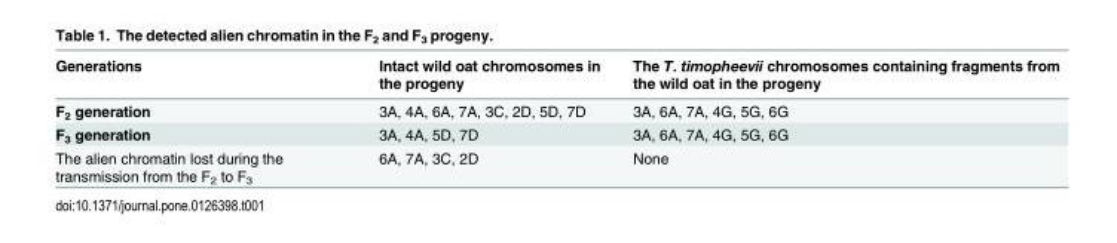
<table><thead><tr><td>Generations</td><td>Intact wild oat chromosomes in the progeny</td><td>The T. timopheevii chromosomes containing fragments from the wild oat in the progeny</td></tr></thead><tbody><tr><td>F<sub>2</sub> generation</td><td>3A, 4A, 6A, 7A, 3C, 2D, 5D, 7D</td><td>3A, 6A, 7A, 4G, 5G, 6G</td></tr><tr><td>F<sub>3</sub> generation</td><td>3A, 4A, 5D, 7D</td><td>3A, 6A, 7A, 4G, 5G, 6G</td></tr><tr><td>The alien chromatin lost during the transmission from the F<sub>2</sub> to F<sub>3</sub></td><td>6A, 7A, 3C, 2D</td><td>None</td></tr></tbody></table>